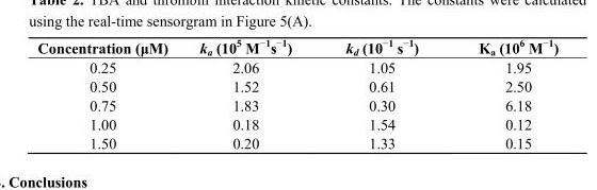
<table><thead><tr><td>Concentration (μM)</td><td>k<sub>a</sub> (10<sup>5</sup> M<sup>−1</sup>s<sup>−1</sup>)</td><td>k<sub>d</sub> (10<sup>−1</sup> s<sup>−1</sup>)</td><td>K<sub>a</sub> (10<sup>6</sup> M<sup>−1</sup>)</td></tr></thead><tbody><tr><td>0.25</td><td>2.06</td><td>1.05</td><td>1.95</td></tr><tr><td>0.50</td><td>1.52</td><td>0.61</td><td>2.50</td></tr><tr><td>0.75</td><td>1.83</td><td>0.30</td><td>6.18</td></tr><tr><td>1.00</td><td>0.18</td><td>1.54</td><td>0.12</td></tr><tr><td>1.50</td><td>0.20</td><td>1.33</td><td>0.15</td></tr></tbody></table>